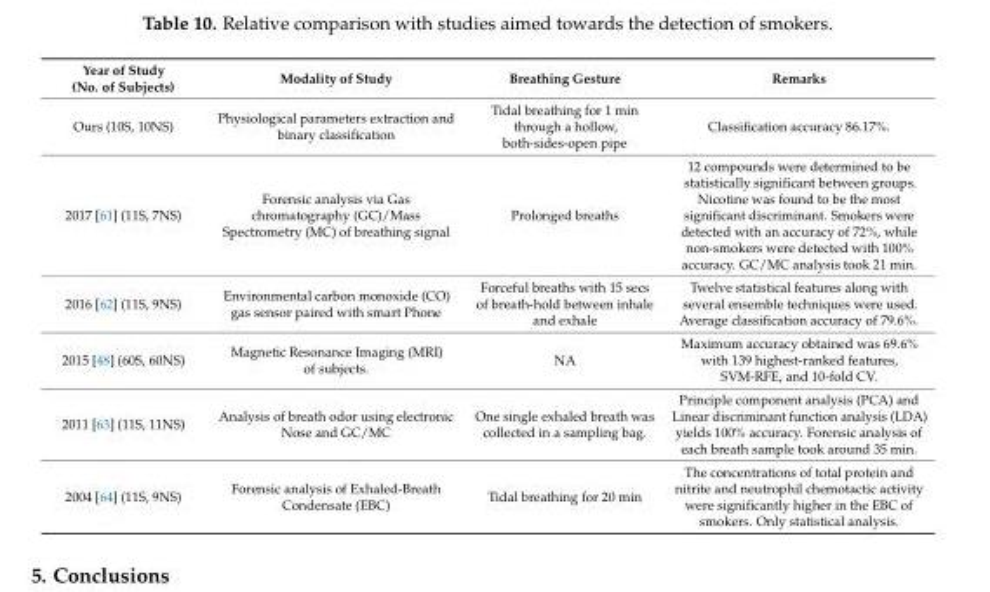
<table><thead><tr><td>Year of Study (No. of Subjects)</td><td>Modality of Study</td><td>Breathing Gesture</td><td>Remarks</td></tr></thead><tbody><tr><td>Ours (10S, 10NS)</td><td>Physiological parameters extraction and binary classification</td><td>Tidal breathing for 1 min through a hollow, both-sides-open pipe</td><td>Classification accuracy 86.17%.</td></tr><tr><td>2017 [61] (11S, 7NS)</td><td>Forensic analysis via Gas chromatography (GC)/Mass Spectrometry (MC) of breathing signal</td><td>Prolonged breaths</td><td>12 compounds were determined to be statistically significant between groups. Nicotine was found to be the most significant discriminant. Smokers were detected with an accuracy of 72%, while non-smokers were detected with 100% accuracy. GC/MC analysis took 21 min.</td></tr><tr><td>2016 [62] (11S, 9NS)</td><td>Environmental carbon monoxide (CO) gas sensor paired with smart Phone</td><td>Forceful breaths with 15 secs of breath-hold between inhale and exhale</td><td>Twelve statistical features along with several ensemble techniques were used. Average classification accuracy of 79.6%.</td></tr><tr><td>2015 [48] (60S, 60NS)</td><td>Magnetic Resonance Imaging (MRI) of subjects.</td><td>NA</td><td>Maximum accuracy obtained was 69.6% with 139 highest-ranked features, SVM-RFE, and 10-fold CV.</td></tr><tr><td>2011 [63] (11S, 11NS)</td><td>Analysis of breath odor using electronic Nose and GC/MC</td><td>One single exhaled breath was collected in a sampling bag.</td><td>Principle component analysis (PCA) and Linear discriminant function analysis (LDA) yields 100% accuracy. Forensic analysis of each breath sample took around 35 min.</td></tr><tr><td>2004 [64] (11S, 9NS)</td><td>Forensic analysis of Exhaled-Breath Condensate (EBC)</td><td>Tidal breathing for 20 min</td><td>The concentrations of total protein and nitrite and neutrophil chemotactic activity were significantly higher in the EBC of smokers. Only statistical analysis.</td></tr></tbody></table>